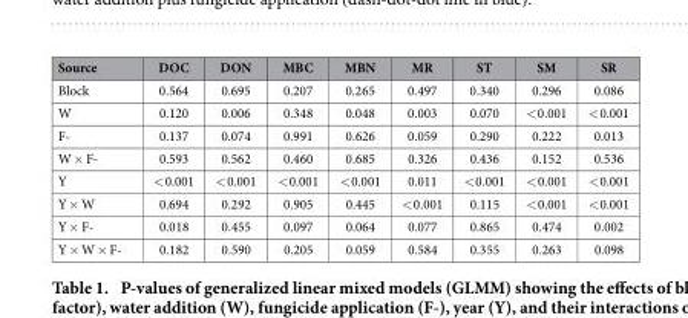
<table><thead><tr><td>Source</td><td>DOC</td><td>DON</td><td>MBC</td><td>MBN</td><td>MR</td><td>ST</td><td>SM</td><td>SR</td></tr></thead><tbody><tr><td>Block</td><td>0.564</td><td>0.695</td><td>0.207</td><td>0.265</td><td>0.497</td><td>0.340</td><td>0.296</td><td>0.086</td></tr><tr><td>W</td><td>0.120</td><td>0.006</td><td>0.348</td><td>0.048</td><td>0.003</td><td>0.070</td><td>&lt; 0.001</td><td>&lt; 0.001</td></tr><tr><td>F-</td><td>0.137</td><td>0.074</td><td>0.991</td><td>0.626</td><td>0.059</td><td>0.290</td><td>0.222</td><td>0.013</td></tr><tr><td>W × F-</td><td>0.593</td><td>0.562</td><td>0.460</td><td>0.685</td><td>0.326</td><td>0.436</td><td>0.152</td><td>0.536</td></tr><tr><td>Y</td><td>&lt; 0.001</td><td>&lt; 0.001</td><td>&lt; 0.001</td><td>&lt; 0.001</td><td>0.011</td><td>&lt; 0.001</td><td>&lt; 0.001</td><td>&lt; 0.001</td></tr><tr><td>Y × W</td><td>0.694</td><td>0.292</td><td>0.905</td><td>0.445</td><td>&lt; 0.001</td><td>0.115</td><td>&lt; 0.001</td><td>&lt; 0.001</td></tr><tr><td>Y × F-</td><td>0.018</td><td>0.455</td><td>0.097</td><td>0.064</td><td>0.077</td><td>0.865</td><td>0.474</td><td>0.002</td></tr><tr><td>Y × W × F-</td><td>0.182</td><td>0.590</td><td>0.205</td><td>0.059</td><td>0.584</td><td>0.355</td><td>0.263</td><td>0.098</td></tr></tbody></table>